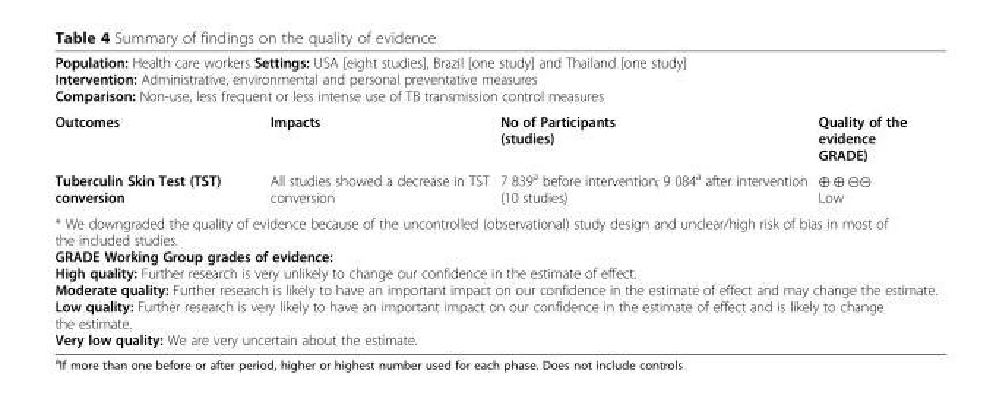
<table><tbody><tr><td colspan="4">Population: Health care workers Settings: USA [eight studies], Brazil [one study] and Thailand [one study] Intervention: Administrative, environmental and personal preventative measures Comparison: Non-use, less frequent or less intense use of TB transmission control measures</td></tr><tr><td>Outcomes</td><td>Impacts</td><td>No of Participants (studies)</td><td>Quality of the evidence GRADE)</td></tr><tr><td>Tuberculin Skin Test (TST) conversion</td><td>All studies showed a decrease in TST conversion</td><td>7 839<sup>a</sup> before intervention; 9 084<sup>a</sup> after intervention (10 studies)</td><td>⊕ ⊕ ⊝⊝ Low</td></tr><tr><td colspan="4">* We downgraded the quality of evidence because of the uncontrolled (observational) study design and unclear/high risk of bias in most of the included studies. GRADE Working Group grades of evidence: High quality: Further research is very unlikely to change our confidence in the estimate of effect. Moderate quality: Further research is likely to have an important impact on our confidence in the estimate of effect and may change the estimate. Low quality: Further research is very likely to have an important impact on our confidence in the estimate of effect and is likely to change the estimate. Very low quality: We are very uncertain about the estimate.</td></tr></tbody></table>